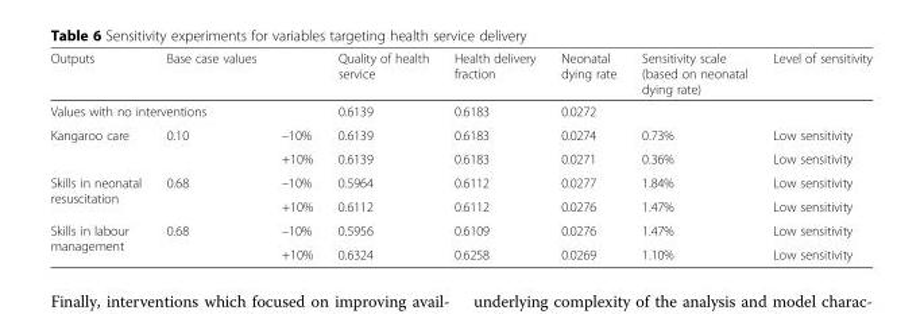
<table><thead><tr><td>Outputs</td><td>Base case values</td><td></td><td>Quality of health service</td><td>Health delivery fraction</td><td>Neonatal dying rate</td><td>Sensitivity scale (based on neonatal dying rate)</td><td>Level of sensitivity</td></tr></thead><tbody><tr><td colspan="2">Values with no interventions</td><td></td><td>0.6139</td><td>0.6183</td><td>0.0272</td><td></td><td></td></tr><tr><td rowspan="2">Kangaroo care</td><td rowspan="2">0.10</td><td>–10%</td><td>0.6139</td><td>0.6183</td><td>0.0274</td><td>0.73%</td><td>Low sensitivity</td></tr><tr><td>+10%</td><td>0.6139</td><td>0.6183</td><td>0.0271</td><td>0.36%</td><td>Low sensitivity</td></tr><tr><td rowspan="2">Skills in neonatal resuscitation</td><td rowspan="2">0.68</td><td>–10%</td><td>0.5964</td><td>0.6112</td><td>0.0277</td><td>1.84%</td><td>Low sensitivity</td></tr><tr><td>+10%</td><td>0.6112</td><td>0.6112</td><td>0.0276</td><td>1.47%</td><td>Low sensitivity</td></tr><tr><td rowspan="2">Skills in labour management</td><td rowspan="2">0.68</td><td>–10%</td><td>0.5956</td><td>0.6109</td><td>0.0276</td><td>1.47%</td><td>Low sensitivity</td></tr><tr><td>+10%</td><td>0.6324</td><td>0.6258</td><td>0.0269</td><td>1.10%</td><td>Low sensitivity</td></tr></tbody></table>